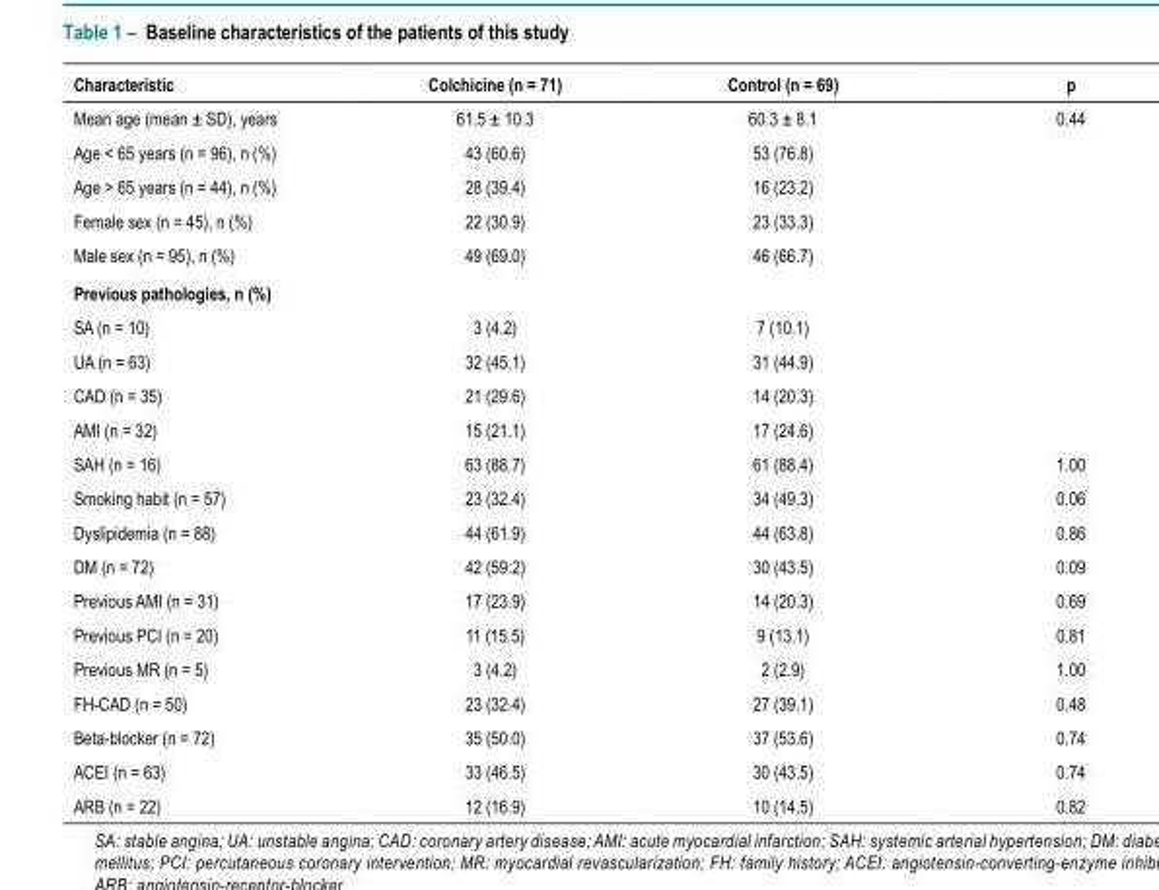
<table><thead><tr><td>Characteristic</td><td>Colchicine (n = 71)</td><td>Control (n = 69)</td><td>p</td></tr></thead><tbody><tr><td>Mean age (mean ± SD), years</td><td>61.5 ± 10.3</td><td>60.3 ± 8.1</td><td>0.44</td></tr><tr><td>Age &lt; 65 years (n = 96), n (%)</td><td>43 (60.6)</td><td>53 (76.8)</td><td></td></tr><tr><td>Age &gt; 65 years (n = 44), n (%)</td><td>28 (39.4)</td><td>16 (23.2)</td><td></td></tr><tr><td>Female sex (n = 45), n (%)</td><td>22 (30.9)</td><td>23 (33.3)</td><td></td></tr><tr><td>Male sex (n = 95), n (%)</td><td>49 (69.0)</td><td>46 (66.7)</td><td></td></tr><tr><td colspan="4">Previous pathologies, n (%)</td></tr><tr><td>SA (n = 10)</td><td>3 (4.2)</td><td>7 (10.1)</td><td></td></tr><tr><td>UA (n = 63)</td><td>32 (45.1)</td><td>31 (44.9)</td><td></td></tr><tr><td>CAD (n = 35)</td><td>21 (29.6)</td><td>14 (20.3)</td><td></td></tr><tr><td>AMI (n = 32)</td><td>15 (21.1)</td><td>17 (24.6)</td><td></td></tr><tr><td>SAH (n = 16)</td><td>63 (88.7)</td><td>61 (88.4)</td><td>1.00</td></tr><tr><td>Smoking habit (n = 57)</td><td>23 (32.4)</td><td>34 (49.3)</td><td>0.06</td></tr><tr><td>Dyslipidemia (n = 88)</td><td>44 (61.9)</td><td>44 (63.8)</td><td>0.86</td></tr><tr><td>DM (n = 72)</td><td>42 (59.2)</td><td>30 (43.5)</td><td>0.09</td></tr><tr><td>Previous AMI (n = 31)</td><td>17 (23.9)</td><td>14 (20.3)</td><td>0.69</td></tr><tr><td>Previous PCI (n = 20)</td><td>11 (15.5)</td><td>9 (13.1)</td><td>0.81</td></tr><tr><td>Previous MR (n = 5)</td><td>3 (4.2)</td><td>2 (2.9)</td><td>1.00</td></tr><tr><td>FH-CAD (n = 50)</td><td>23 (32.4)</td><td>27 (39.1)</td><td>0.48</td></tr><tr><td>Beta-blocker (n = 72)</td><td>35 (50.0)</td><td>37 (53.6)</td><td>0.74</td></tr><tr><td>ACEI (n = 63)</td><td>33 (46.5)</td><td>30 (43.5)</td><td>0.74</td></tr><tr><td>ARB (n = 22)</td><td>12 (16.9)</td><td>10 (14.5)</td><td>0.82</td></tr></tbody></table>